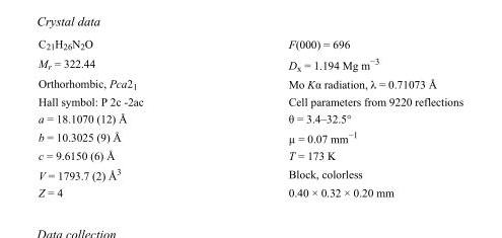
<table><tbody><tr><td>C<sub>21</sub>H<sub>26</sub>N<sub>2</sub>O</td><td>F(000) = 696</td></tr><tr><td>M<sub>r</sub> = 322.44</td><td>D<sub>x</sub> = 1.194 Mg m<sup>−3</sup></td></tr><tr><td>Orthorhombic, Pca2<sub>1</sub></td><td>Mo Kα radiation, λ = 0.71073 Å</td></tr><tr><td>Hall symbol: P 2c -2ac</td><td>Cell parameters from 9220 reflections</td></tr><tr><td>a = 18.1070 (12) Å</td><td>θ = 3.4–32.5°</td></tr><tr><td>b = 10.3025 (9) Å</td><td>µ = 0.07 mm<sup>−1</sup></td></tr><tr><td>c = 9.6150 (6) Å</td><td>T = 173 K</td></tr><tr><td>V = 1793.7 (2) Å<sup>3</sup></td><td>Block, colorless</td></tr><tr><td>Z = 4</td><td>0.40 × 0.32 × 0.20 mm</td></tr></tbody></table>